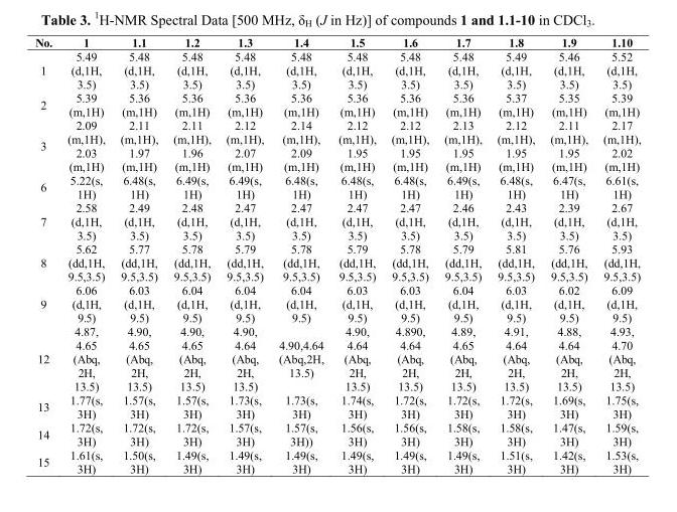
<table><thead><tr><td>No.</td><td>1</td><td>1.1</td><td>1.2</td><td>1.3</td><td>1.4</td><td>1.5</td><td>1.6</td><td>1.7</td><td>1.8</td><td>1.9</td><td>1.10</td></tr></thead><tbody><tr><td>1</td><td>5.49 (d,1H, 3.5)</td><td>5.48 (d,1H, 3.5)</td><td>5.48 (d,1H, 3.5)</td><td>5.48 (d,1H, 3.5)</td><td>5.48 (d,1H, 3.5)</td><td>5.48 (d,1H, 3.5)</td><td>5.48 (d,1H, 3.5)</td><td>5.48 (d,1H, 3.5)</td><td>5.49 (d,1H, 3.5)</td><td>5.46 (d,1H, 3.5)</td><td>5.52 (d,1H, 3.5)</td></tr><tr><td>2</td><td>5.39 (m,1H)</td><td>5.36 (m,1H)</td><td>5.36 (m,1H)</td><td>5.36 (m,1H)</td><td>5.36 (m,1H)</td><td>5.36 (m,1H)</td><td>5.36 (m,1H)</td><td>5.36 (m,1H)</td><td>5.37 (m,1H)</td><td>5.35 (m,1H)</td><td>5.39 (m,1H)</td></tr><tr><td>3</td><td>2.09 (m,1H), 2.03 (m,1H)</td><td>2.11 (m,1H), 1.97 (m,1H)</td><td>2.11 (m,1H), 1.96 (m,1H)</td><td>2.12 (m,1H), 2.07 (m,1H)</td><td>2.14 (m,1H), 2.09 (m,1H)</td><td>2.12 (m,1H), 1.95 (m,1H)</td><td>2.12 (m,1H), 1.95 (m,1H)</td><td>2.13 (m,1H), 1.95 (m,1H)</td><td>2.12 (m,1H), 1.95 (m,1H)</td><td>2.11 (m,1H), 1.95 (m,1H)</td><td>2.17 (m,1H), 2.02 (m,1H)</td></tr><tr><td>6</td><td>5.22(s, 1H)</td><td>6.48(s, 1H)</td><td>6.49(s, 1H)</td><td>6.49(s, 1H)</td><td>6.48(s, 1H)</td><td>6.48(s, 1H)</td><td>6.48(s, 1H)</td><td>6.49(s, 1H)</td><td>6.48(s, 1H)</td><td>6.47(s, 1H)</td><td>6.61(s, 1H)</td></tr><tr><td>7</td><td>2.58 (d,1H, 3.5)</td><td>2.49 (d,1H, 3.5)</td><td>2.48 (d,1H, 3.5)</td><td>2.47 (d,1H, 3.5)</td><td>2.47 (d,1H, 3.5)</td><td>2.47 (d,1H, 3.5)</td><td>2.47 (d,1H, 3.5)</td><td>2.46 (d,1H, 3.5)</td><td>2.43 (d,1H, 3.5)</td><td>2.39 (d,1H, 3.5)</td><td>2.67 (d,1H, 3.5)</td></tr><tr><td>8</td><td>5.62 (dd,1H, 9.5,3.5)</td><td>5.77 (dd,1H, 9.5,3.5)</td><td>5.78 (dd,1H, 9.5,3.5)</td><td>5.79 (dd,1H, 9.5,3.5)</td><td>5.78 (dd,1H, 9.5,3.5)</td><td>5.79 (dd,1H, 9.5,3.5)</td><td>5.78 (dd,1H, 9.5,3.5)</td><td>5.79 (dd,1H, 9.5,3.5)</td><td>5.81 (dd,1H, 9.5,3.5)</td><td>5.76 (dd,1H, 9.5,3.5)</td><td>5.93 (dd,1H, 9.5,3.5)</td></tr><tr><td>9</td><td>6.06 (d,1H, 9.5)</td><td>6.03 (d,1H, 9.5)</td><td>6.04 (d,1H, 9.5)</td><td>6.04 (d,1H, 9.5)</td><td>6.04 (d,1H, 9.5)</td><td>6.03 (d,1H, 9.5)</td><td>6.03 (d,1H, 9.5)</td><td>6.04 (d,1H, 9.5)</td><td>6.03 (d,1H, 9.5)</td><td>6.02 (d,1H, 9.5)</td><td>6.09 (d,1H, 9.5)</td></tr><tr><td>12</td><td>4.87, 4.65 (Abq, 2H, 13.5)</td><td>4.90, 4.65 (Abq, 2H, 13.5)</td><td>4.90, 4.65 (Abq, 2H, 13.5)</td><td>4.90, 4.64 (Abq, 2H, 13.5)</td><td>4.90,4.64 (Abq,2H, 13.5)</td><td>4.90, 4.64 (Abq, 2H, 13.5)</td><td>4.890, 4.64 (Abq, 2H, 13.5)</td><td>4.89, 4.65 (Abq, 2H, 13.5)</td><td>4.91, 4.64 (Abq, 2H, 13.5)</td><td>4.88, 4.64 (Abq, 2H, 13.5)</td><td>4.93, 4.70 (Abq, 2H, 13.5)</td></tr><tr><td>13</td><td>1.77(s, 3H)</td><td>1.57(s, 3H)</td><td>1.57(s, 3H)</td><td>1.73(s, 3H)</td><td>1.73(s, 3H)</td><td>1.74(s, 3H)</td><td>1.72(s, 3H)</td><td>1.72(s, 3H)</td><td>1.72(s, 3H)</td><td>1.69(s, 3H)</td><td>1.75(s, 3H)</td></tr><tr><td>14</td><td>1.72(s, 3H)</td><td>1.72(s, 3H)</td><td>1.72(s, 3H)</td><td>1.57(s, 3H)</td><td>1.57(s, 3H))</td><td>1.56(s, 3H)</td><td>1.56(s, 3H)</td><td>1.58(s, 3H)</td><td>1.58(s, 3H)</td><td>1.47(s, 3H)</td><td>1.59(s, 3H)</td></tr><tr><td>15</td><td>1.61(s, 3H)</td><td>1.50(s, 3H)</td><td>1.49(s, 3H)</td><td>1.49(s, 3H)</td><td>1.49(s, 3H)</td><td>1.49(s, 3H)</td><td>1.49(s, 3H)</td><td>1.49(s, 3H)</td><td>1.51(s, 3H)</td><td>1.42(s, 3H)</td><td>1.53(s, 3H)</td></tr></tbody></table>